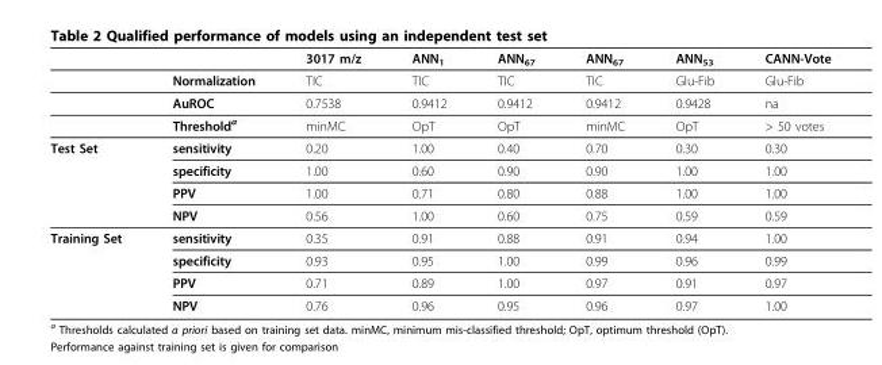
<table><thead><tr><td></td><td></td><td>3017 m/z</td><td>ANN<sub>1</sub></td><td>ANN<sub>67</sub></td><td>ANN<sub>67</sub></td><td>ANN<sub>53</sub></td><td>CANN-Vote</td></tr></thead><tbody><tr><td></td><td>Normalization</td><td>TIC</td><td>TIC</td><td>TIC</td><td>TIC</td><td>Glu-Fib</td><td>Glu-Fib</td></tr><tr><td></td><td>AuROC</td><td>0.7538</td><td>0.9412</td><td>0.9412</td><td>0.9412</td><td>0.9428</td><td>na</td></tr><tr><td></td><td>Threshold<sup>a</sup></td><td>minMC</td><td>OpT</td><td>OpT</td><td>minMC</td><td>OpT</td><td>&gt; 50 votes</td></tr><tr><td rowspan="4">Test Set</td><td>sensitivity</td><td>0.20</td><td>1.00</td><td>0.40</td><td>0.70</td><td>0.30</td><td>0.30</td></tr><tr><td>specificity</td><td>1.00</td><td>0.60</td><td>0.90</td><td>0.90</td><td>1.00</td><td>1.00</td></tr><tr><td>PPV</td><td>1.00</td><td>0.71</td><td>0.80</td><td>0.88</td><td>1.00</td><td>1.00</td></tr><tr><td>NPV</td><td>0.56</td><td>1.00</td><td>0.60</td><td>0.75</td><td>0.59</td><td>0.59</td></tr><tr><td rowspan="4">Training Set</td><td>sensitivity</td><td>0.35</td><td>0.91</td><td>0.88</td><td>0.91</td><td>0.94</td><td>1.00</td></tr><tr><td>specificity</td><td>0.93</td><td>0.95</td><td>1.00</td><td>0.99</td><td>0.96</td><td>0.99</td></tr><tr><td>PPV</td><td>0.71</td><td>0.89</td><td>1.00</td><td>0.97</td><td>0.91</td><td>0.97</td></tr><tr><td>NPV</td><td>0.76</td><td>0.96</td><td>0.95</td><td>0.96</td><td>0.97</td><td>1.00</td></tr></tbody></table>